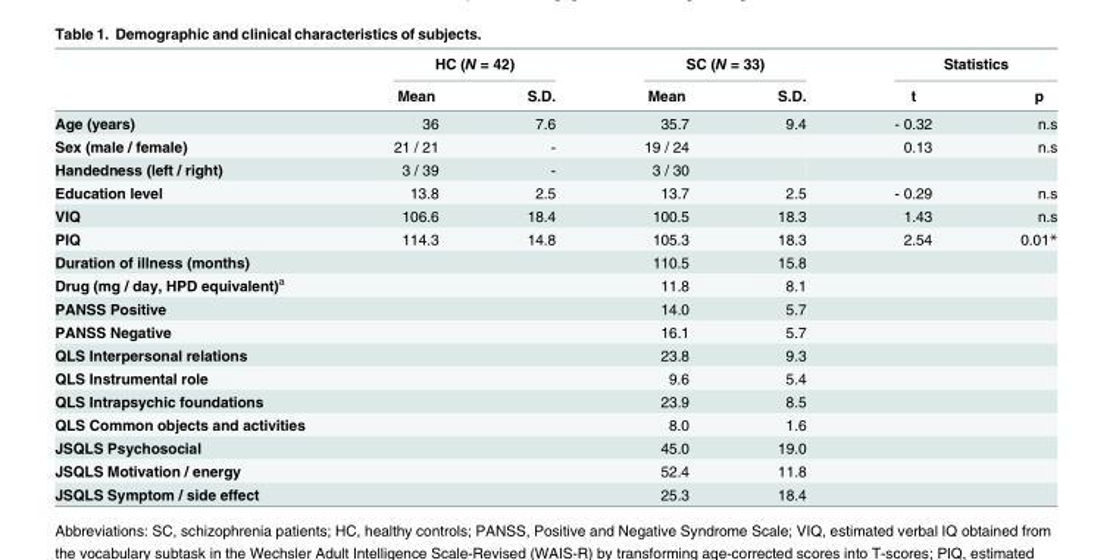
<table><thead><tr><td rowspan="2"></td><td colspan="2">HC (N = 42)</td><td colspan="2">SC (N = 33)</td><td colspan="2">Statistics</td></tr><tr><td>Mean</td><td>S.D.</td><td>Mean</td><td>S.D.</td><td>t</td><td>p</td></tr></thead><tbody><tr><td>Age (years)</td><td>36</td><td>7.6</td><td>35.7</td><td>9.4</td><td>- 0.32</td><td>n.s</td></tr><tr><td>Sex (male / female)</td><td>21 / 21</td><td>-</td><td>19 / 24</td><td></td><td>0.13</td><td>n.s</td></tr><tr><td>Handedness (left / right)</td><td>3 / 39</td><td>-</td><td>3 / 30</td><td></td><td></td><td></td></tr><tr><td>Education level</td><td>13.8</td><td>2.5</td><td>13.7</td><td>2.5</td><td>- 0.29</td><td>n.s</td></tr><tr><td>VIQ</td><td>106.6</td><td>18.4</td><td>100.5</td><td>18.3</td><td>1.43</td><td>n.s</td></tr><tr><td>PIQ</td><td>114.3</td><td>14.8</td><td>105.3</td><td>18.3</td><td>2.54</td><td>0.01*</td></tr><tr><td>Duration of illness (months)</td><td></td><td></td><td>110.5</td><td>15.8</td><td></td><td></td></tr><tr><td>Drug (mg / day, HPD equivalent)<sup>a</sup></td><td></td><td></td><td>11.8</td><td>8.1</td><td></td><td></td></tr><tr><td>PANSS Positive</td><td></td><td></td><td>14.0</td><td>5.7</td><td></td><td></td></tr><tr><td>PANSS Negative</td><td></td><td></td><td>16.1</td><td>5.7</td><td></td><td></td></tr><tr><td>QLS Interpersonal relations</td><td></td><td></td><td>23.8</td><td>9.3</td><td></td><td></td></tr><tr><td>QLS Instrumental role</td><td></td><td></td><td>9.6</td><td>5.4</td><td></td><td></td></tr><tr><td>QLS Intrapsychic foundations</td><td></td><td></td><td>23.9</td><td>8.5</td><td></td><td></td></tr><tr><td>QLS Common objects and activities</td><td></td><td></td><td>8.0</td><td>1.6</td><td></td><td></td></tr><tr><td>JSQLS Psychosocial</td><td></td><td></td><td>45.0</td><td>19.0</td><td></td><td></td></tr><tr><td>JSQLS Motivation / energy</td><td></td><td></td><td>52.4</td><td>11.8</td><td></td><td></td></tr><tr><td>JSQLS Symptom / side effect</td><td></td><td></td><td>25.3</td><td>18.4</td><td></td><td></td></tr></tbody></table>